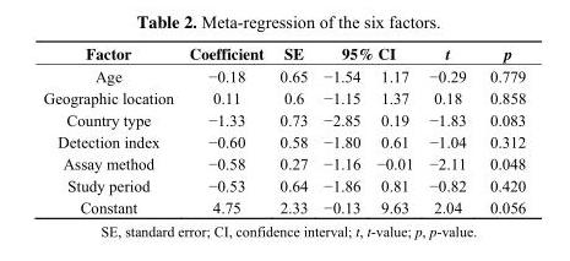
<table><thead><tr><td rowspan="2">Factor Age</td><td rowspan="2">Coefficient −0.18</td><td rowspan="2">SE 0.65</td><td colspan="2">95% CI</td><td rowspan="2">t −0.29</td><td rowspan="2">p 0.779</td></tr><tr><td>−1.54</td><td>1.17</td></tr></thead><tbody><tr><td>Geographic location</td><td>0.11</td><td>0.6</td><td>−1.15</td><td>1.37</td><td>0.18</td><td>0.858</td></tr><tr><td>Country type</td><td>−1.33</td><td>0.73</td><td>−2.85</td><td>0.19</td><td>−1.83</td><td>0.083</td></tr><tr><td>Detection index</td><td>−0.60</td><td>0.58</td><td>−1.80</td><td>0.61</td><td>−1.04</td><td>0.312</td></tr><tr><td>Assay method</td><td>−0.58</td><td>0.27</td><td>−1.16</td><td>−0.01</td><td>−2.11</td><td>0.048</td></tr><tr><td>Study period</td><td>−0.53</td><td>0.64</td><td>−1.86</td><td>0.81</td><td>−0.82</td><td>0.420</td></tr><tr><td>Constant</td><td>4.75</td><td>2.33</td><td>−0.13</td><td>9.63</td><td>2.04</td><td>0.056</td></tr></tbody></table>